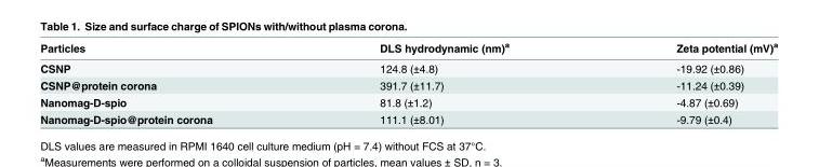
<table><thead><tr><td>Particles</td><td>DLS hydrodynamic (nm)<sup>a</sup></td><td>Zeta potential (mV)<sup>a</sup></td></tr></thead><tbody><tr><td>CSNP</td><td>124.8 (±4.8)</td><td>-19.92 (±0.86)</td></tr><tr><td>CSNP@protein corona</td><td>391.7 (±11.7)</td><td>-11.24 (±0.39)</td></tr><tr><td>Nanomag-D-spio</td><td>81.8 (±1.2)</td><td>-4.87 (±0.69)</td></tr><tr><td>Nanomag-D-spio@protein corona</td><td>111.1 (±8.01)</td><td>-9.79 (±0.4)</td></tr></tbody></table>